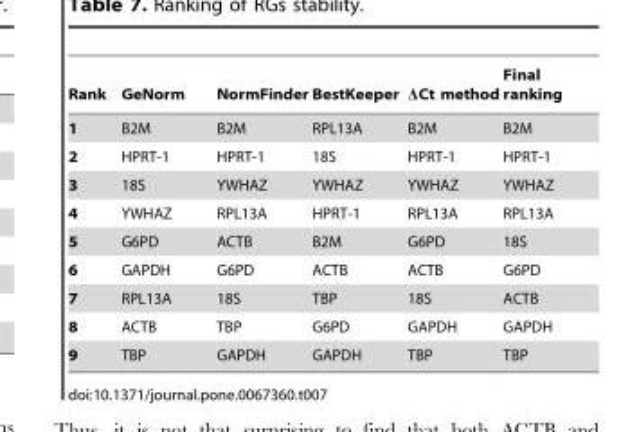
<table><thead><tr><td>Rank</td><td>GeNorm</td><td>NormFinder</td><td>BestKeeper</td><td>ΔCt method</td><td>Final ranking</td></tr></thead><tbody><tr><td>1</td><td>B2M</td><td>B2M</td><td>RPL13A</td><td>B2M</td><td>B2M</td></tr><tr><td>2</td><td>HPRT-1</td><td>HPRT-1</td><td>18S</td><td>HPRT-1</td><td>HPRT-1</td></tr><tr><td>3</td><td>18S</td><td>YWHAZ</td><td>YWHAZ</td><td>YWHAZ</td><td>YWHAZ</td></tr><tr><td>4</td><td>YWHAZ</td><td>RPL13A</td><td>HPRT-1</td><td>RPL13A</td><td>RPL13A</td></tr><tr><td>5</td><td>G6PD</td><td>ACTB</td><td>B2M</td><td>G6PD</td><td>18S</td></tr><tr><td>6</td><td>GAPDH</td><td>G6PD</td><td>ACTB</td><td>ACTB</td><td>G6PD</td></tr><tr><td>7</td><td>RPL13A</td><td>18S</td><td>TBP</td><td>18S</td><td>ACTB</td></tr><tr><td>8</td><td>ACTB</td><td>TBP</td><td>G6PD</td><td>GAPDH</td><td>GAPDH</td></tr><tr><td>9</td><td>TBP</td><td>GAPDH</td><td>GAPDH</td><td>TBP</td><td>TBP</td></tr></tbody></table>